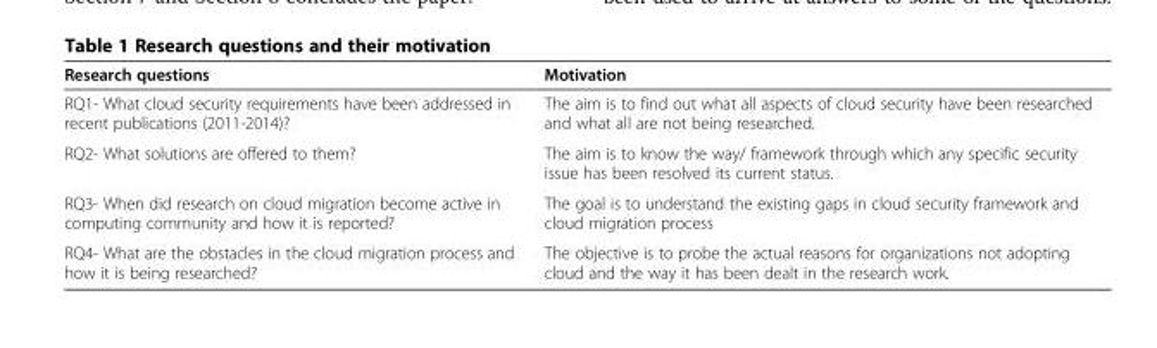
<table><thead><tr><td>Research questions</td><td>Motivation</td></tr></thead><tbody><tr><td>RQ1- What cloud security requirements have been addressed in recent publications (2011-2014)?</td><td>The aim is to find out what all aspects of cloud security have been researched and what all are not being researched.</td></tr><tr><td>RQ2- What solutions are offered to them?</td><td>The aim is to know the way/ framework through which any specific security issue has been resolved its current status.</td></tr><tr><td>RQ3- When did research on cloud migration become active in computing community and how it is reported?</td><td>The goal is to understand the existing gaps in cloud security framework and cloud migration process</td></tr><tr><td>RQ4- What are the obstacles in the cloud migration process and how it is being researched?</td><td>The objective is to probe the actual reasons for organizations not adopting cloud and the way it has been dealt in the research work.</td></tr></tbody></table>